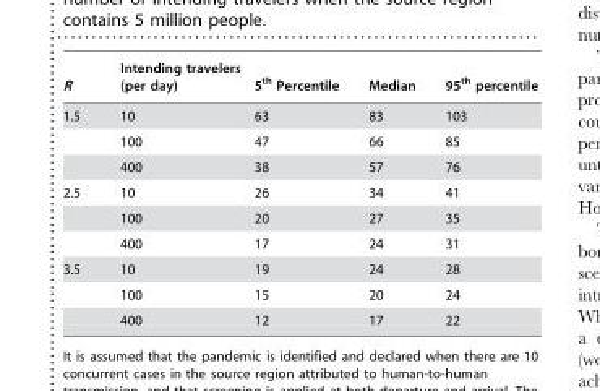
<table><thead><tr><td>R</td><td>Intending travelers (per day)</td><td>5<sup>th</sup> Percentile</td><td>Median</td><td>95<sup>th</sup> percentile</td></tr></thead><tbody><tr><td rowspan="3">1.5</td><td>10</td><td>63</td><td>83</td><td>103</td></tr><tr><td>100</td><td>47</td><td>66</td><td>85</td></tr><tr><td>400</td><td>38</td><td>57</td><td>76</td></tr><tr><td rowspan="3">2.5</td><td>10</td><td>26</td><td>34</td><td>41</td></tr><tr><td>100</td><td>20</td><td>27</td><td>35</td></tr><tr><td>400</td><td>17</td><td>24</td><td>31</td></tr><tr><td rowspan="3">3.5</td><td>10</td><td>19</td><td>24</td><td>28</td></tr><tr><td>100</td><td>15</td><td>20</td><td>24</td></tr><tr><td>400</td><td>12</td><td>17</td><td>22</td></tr></tbody></table>